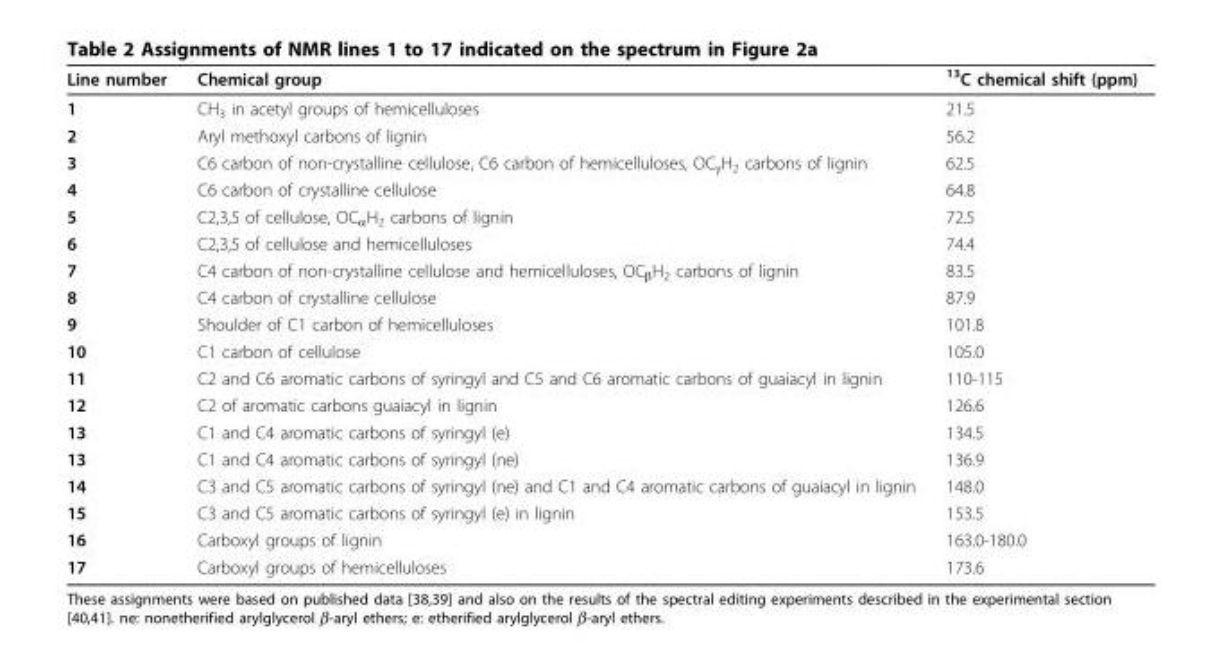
<table><thead><tr><td>Line number</td><td>Chemical group</td><td><sup>13</sup>C chemical shift (ppm)</td></tr></thead><tbody><tr><td>1</td><td>CH<sub>3</sub> in acetyl groups of hemicelluloses</td><td>21.5</td></tr><tr><td>2</td><td>Aryl methoxyl carbons of lignin</td><td>56.2</td></tr><tr><td>3</td><td>C6 carbon of non-crystalline cellulose, C6 carbon of hemicelluloses, OC<sub>γ</sub>H<sub>2</sub> carbons of lignin</td><td>62.5</td></tr><tr><td>4</td><td>C6 carbon of crystalline cellulose</td><td>64.8</td></tr><tr><td>5</td><td>C2,3,5 of cellulose, OC<sub>α</sub>H<sub>2</sub> carbons of lignin</td><td>72.5</td></tr><tr><td>6</td><td>C2,3,5 of cellulose and hemicelluloses</td><td>74.4</td></tr><tr><td>7</td><td>C4 carbon of non-crystalline cellulose and hemicelluloses, OC<sub>β</sub>H<sub>2</sub> carbons of lignin</td><td>83.5</td></tr><tr><td>8</td><td>C4 carbon of crystalline cellulose</td><td>87.9</td></tr><tr><td>9</td><td>Shoulder of C1 carbon of hemicelluloses</td><td>101.8</td></tr><tr><td>10</td><td>C1 carbon of cellulose</td><td>105.0</td></tr><tr><td>11</td><td>C2 and C6 aromatic carbons of syringyl and C5 and C6 aromatic carbons of guaiacyl in lignin</td><td>110-115</td></tr><tr><td>12</td><td>C2 of aromatic carbons guaiacyl in lignin</td><td>126.6</td></tr><tr><td>13</td><td>C1 and C4 aromatic carbons of syringyl (e)</td><td>134.5</td></tr><tr><td>13</td><td>C1 and C4 aromatic carbons of syringyl (ne)</td><td>136.9</td></tr><tr><td>14</td><td>C3 and C5 aromatic carbons of syringyl (ne) and C1 and C4 aromatic carbons of guaiacyl in lignin</td><td>148.0</td></tr><tr><td>15</td><td>C3 and C5 aromatic carbons of syringyl (e) in lignin</td><td>153.5</td></tr><tr><td>16</td><td>Carboxyl groups of lignin</td><td>163.0-180.0</td></tr><tr><td>17</td><td>Carboxyl groups of hemicelluloses</td><td>173.6</td></tr></tbody></table>